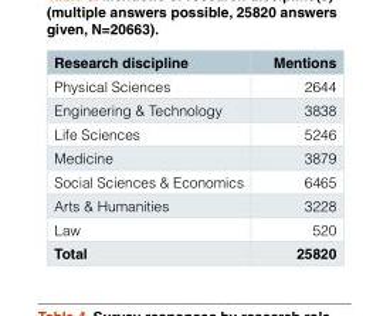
<table><thead><tr><td>Research discipline</td><td>Mentions</td></tr></thead><tbody><tr><td>Physical Sciences</td><td>2644</td></tr><tr><td>Engineering &amp; Technology</td><td>3838</td></tr><tr><td>Life Sciences</td><td>5246</td></tr><tr><td>Medicine</td><td>3879</td></tr><tr><td>Social Sciences &amp; Economics</td><td>6465</td></tr><tr><td>Arts &amp; Humanities</td><td>3228</td></tr><tr><td>Law</td><td>520</td></tr><tr><td>Total</td><td>25820</td></tr></tbody></table>